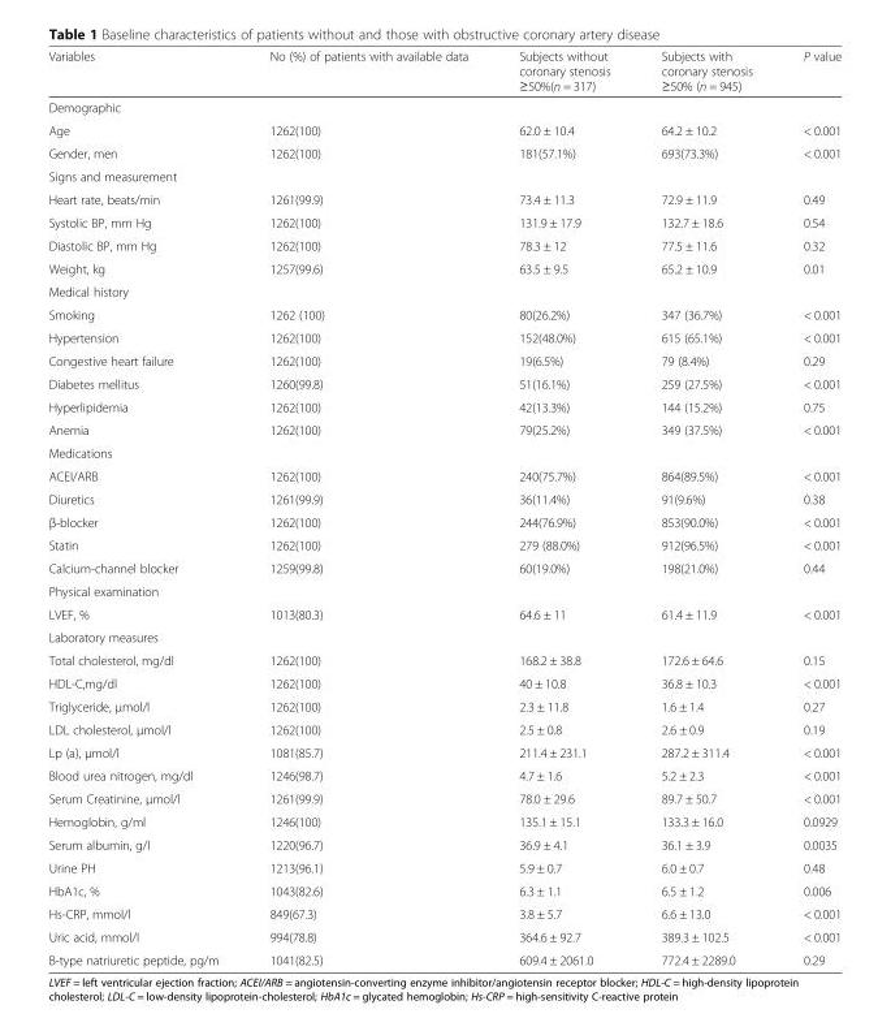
<table><thead><tr><td>Variables</td><td>No (%) of patients with available data</td><td>Subjects without coronary stenosis ≥50%(n = 317)</td><td>Subjects with coronary stenosis ≥50% (n = 945)</td><td>P value</td></tr></thead><tbody><tr><td colspan="5">Demographic</td></tr><tr><td>Age</td><td>1262(100)</td><td>62.0 ± 10.4</td><td>64.2 ± 10.2</td><td>&lt; 0.001</td></tr><tr><td>Gender, men</td><td>1262(100)</td><td>181(57.1%)</td><td>693(73.3%)</td><td>&lt; 0.001</td></tr><tr><td colspan="5">Signs and measurement</td></tr><tr><td>Heart rate, beats/min</td><td>1261(99.9)</td><td>73.4 ± 11.3</td><td>72.9 ± 11.9</td><td>0.49</td></tr><tr><td>Systolic BP, mm Hg</td><td>1262(100)</td><td>131.9 ± 17.9</td><td>132.7 ± 18.6</td><td>0.54</td></tr><tr><td>Diastolic BP, mm Hg</td><td>1262(100)</td><td>78.3 ± 12</td><td>77.5 ± 11.6</td><td>0.32</td></tr><tr><td>Weight, kg</td><td>1257(99.6)</td><td>63.5 ± 9.5</td><td>65.2 ± 10.9</td><td>0.01</td></tr><tr><td colspan="5">Medical history</td></tr><tr><td>Smoking</td><td>1262 (100)</td><td>80(26.2%)</td><td>347 (36.7%)</td><td>&lt; 0.001</td></tr><tr><td>Hypertension</td><td>1262(100)</td><td>152(48.0%)</td><td>615 (65.1%)</td><td>&lt; 0.001</td></tr><tr><td>Congestive heart failure</td><td>1262(100)</td><td>19(6.5%)</td><td>79 (8.4%)</td><td>0.29</td></tr><tr><td>Diabetes mellitus</td><td>1260(99.8)</td><td>51(16.1%)</td><td>259 (27.5%)</td><td>&lt; 0.001</td></tr><tr><td>Hyperlipidemia</td><td>1262(100)</td><td>42(13.3%)</td><td>144 (15.2%)</td><td>0.75</td></tr><tr><td>Anemia</td><td>1262(100)</td><td>79(25.2%)</td><td>349 (37.5%)</td><td>&lt; 0.001</td></tr><tr><td colspan="5">Medications</td></tr><tr><td>ACEI/ARB</td><td>1262(100)</td><td>240(75.7%)</td><td>864(89.5%)</td><td>&lt; 0.001</td></tr><tr><td>Diuretics</td><td>1261(99.9)</td><td>36(11.4%)</td><td>91(9.6%)</td><td>0.38</td></tr><tr><td>β-blocker</td><td>1262(100)</td><td>244(76.9%)</td><td>853(90.0%)</td><td>&lt; 0.001</td></tr><tr><td>Statin</td><td>1262(100)</td><td>279 (88.0%)</td><td>912(96.5%)</td><td>&lt; 0.001</td></tr><tr><td>Calcium-channel blocker</td><td>1259(99.8)</td><td>60(19.0%)</td><td>198(21.0%)</td><td>0.44</td></tr><tr><td colspan="5">Physical examination</td></tr><tr><td>LVEF, %</td><td>1013(80.3)</td><td>64.6 ± 11</td><td>61.4 ± 11.9</td><td>&lt; 0.001</td></tr><tr><td colspan="5">Laboratory measures</td></tr><tr><td>Total cholesterol, mg/dl</td><td>1262(100)</td><td>168.2 ± 38.8</td><td>172.6 ± 64.6</td><td>0.15</td></tr><tr><td>HDL-C,mg/dl</td><td>1262(100)</td><td>40 ± 10.8</td><td>36.8 ± 10.3</td><td>&lt; 0.001</td></tr><tr><td>Triglyceride, μmol/l</td><td>1262(100)</td><td>2.3 ± 11.8</td><td>1.6 ± 1.4</td><td>0.27</td></tr><tr><td>LDL cholesterol, μmol/l</td><td>1262(100)</td><td>2.5 ± 0.8</td><td>2.6 ± 0.9</td><td>0.19</td></tr><tr><td>Lp (a), μmol/l</td><td>1081(85.7)</td><td>211.4 ± 231.1</td><td>287.2 ± 311.4</td><td>&lt; 0.001</td></tr><tr><td>Blood urea nitrogen, mg/dl</td><td>1246(98.7)</td><td>4.7 ± 1.6</td><td>5.2 ± 2.3</td><td>&lt; 0.001</td></tr><tr><td>Serum Creatinine, μmol/l</td><td>1261(99.9)</td><td>78.0 ± 29.6</td><td>89.7 ± 50.7</td><td>&lt; 0.001</td></tr><tr><td>Hemoglobin, g/ml</td><td>1246(100)</td><td>135.1 ± 15.1</td><td>133.3 ± 16.0</td><td>0.0929</td></tr><tr><td>Serum albumin, g/l</td><td>1220(96.7)</td><td>36.9 ± 4.1</td><td>36.1 ± 3.9</td><td>0.0035</td></tr><tr><td>Urine PH</td><td>1213(96.1)</td><td>5.9 ± 0.7</td><td>6.0 ± 0.7</td><td>0.48</td></tr><tr><td>HbA1c, %</td><td>1043(82.6)</td><td>6.3 ± 1.1</td><td>6.5 ± 1.2</td><td>0.006</td></tr><tr><td>Hs-CRP, mmol/l</td><td>849(67.3)</td><td>3.8 ± 5.7</td><td>6.6 ± 13.0</td><td>&lt; 0.001</td></tr><tr><td>Uric acid, mmol/l</td><td>994(78.8)</td><td>364.6 ± 92.7</td><td>389.3 ± 102.5</td><td>&lt; 0.001</td></tr><tr><td>B-type natriuretic peptide, pg/m</td><td>1041(82.5)</td><td>609.4 ± 2061.0</td><td>772.4 ± 2289.0</td><td>0.29</td></tr></tbody></table>